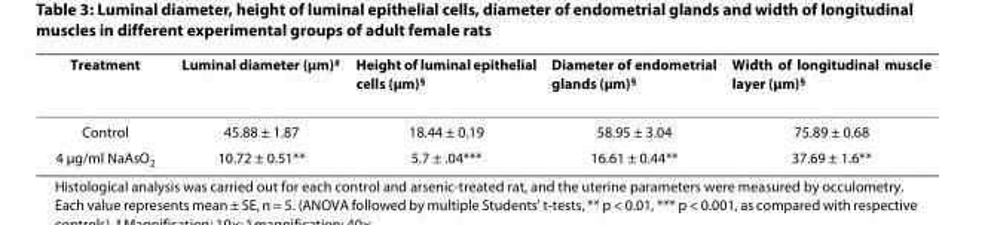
<table><thead><tr><td>Treatment</td><td>Luminal diameter (μm)<sup>#</sup></td><td>Height of luminal epithelial cells (μm)<sup>§</sup></td><td>Diameter of endometrial glands (μm)<sup>§</sup></td><td>Width of longitudinal muscle layer (μm)<sup>§</sup></td></tr></thead><tbody><tr><td>Control</td><td>45.88 ± 1.87</td><td>18.44 ± 0.19</td><td>58.95 ± 3.04</td><td>75.89 ± 0.68</td></tr><tr><td>4 μg/ml NaAsO<sub>2</sub></td><td>10.72 ± 0.51**</td><td>5.7 ± .04***</td><td>16.61 ± 0.44**</td><td>37.69 ± 1.6**</td></tr></tbody></table>